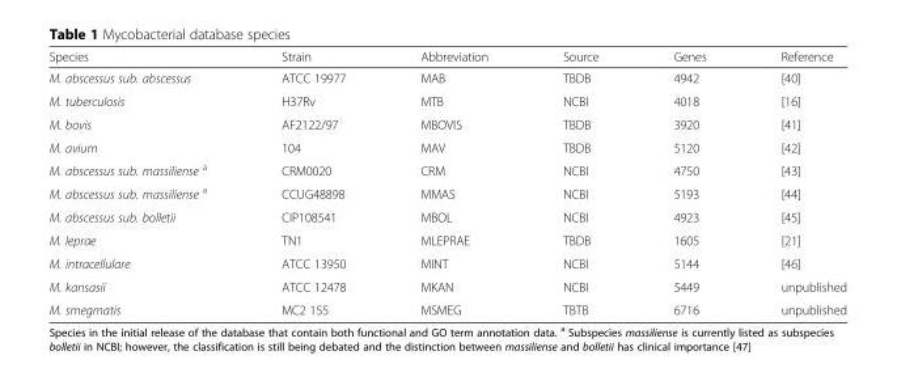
<table><thead><tr><td>Species</td><td>Strain</td><td>Abbreviation</td><td>Source</td><td>Genes</td><td>Reference</td></tr></thead><tbody><tr><td>M. abscessus sub. abscessus</td><td>ATCC 19977</td><td>MAB</td><td>TBDB</td><td>4942</td><td>[40]</td></tr><tr><td>M. tuberculosis</td><td>H37Rv</td><td>MTB</td><td>NCBI</td><td>4018</td><td>[16]</td></tr><tr><td>M. bovis</td><td>AF2122/97</td><td>MBOVIS</td><td>TBDB</td><td>3920</td><td>[41]</td></tr><tr><td>M. avium</td><td>104</td><td>MAV</td><td>TBDB</td><td>5120</td><td>[42]</td></tr><tr><td>M. abscessus sub. massiliense <sup>a</sup></td><td>CRM0020</td><td>CRM</td><td>NCBI</td><td>4750</td><td>[43]</td></tr><tr><td>M. abscessus sub. massiliense <sup>a</sup></td><td>CCUG48898</td><td>MMAS</td><td>NCBI</td><td>5193</td><td>[44]</td></tr><tr><td>M. abscessus sub. bolletii</td><td>CIP108541</td><td>MBOL</td><td>NCBI</td><td>4923</td><td>[45]</td></tr><tr><td>M. leprae</td><td>TN1</td><td>MLEPRAE</td><td>TBDB</td><td>1605</td><td>[21]</td></tr><tr><td>M. intracellulare</td><td>ATCC 13950</td><td>MINT</td><td>NCBI</td><td>5144</td><td>[46]</td></tr><tr><td>M. kansasii</td><td>ATCC 12478</td><td>MKAN</td><td>NCBI</td><td>5449</td><td>unpublished</td></tr><tr><td>M. smegmatis</td><td>MC2 155</td><td>MSMEG</td><td>TBTB</td><td>6716</td><td>unpublished</td></tr></tbody></table>